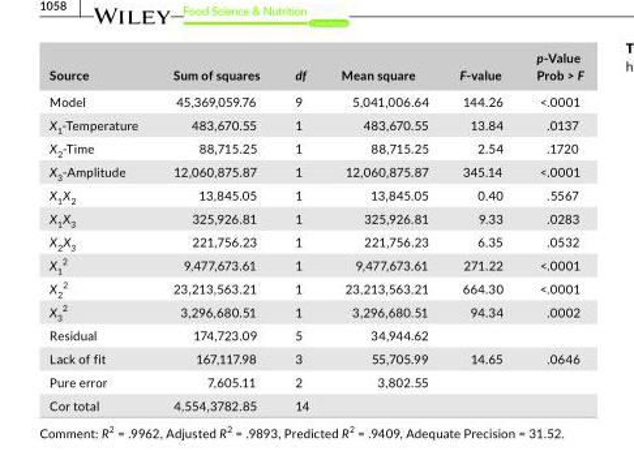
<table><thead><tr><td>Source</td><td>Sumofsquares</td><td>df</td><td>Meansquare</td><td>F-value</td><td>p-Value Prob&gt;F</td></tr></thead><tbody><tr><td>Model</td><td>45,369,059.76</td><td>9</td><td>5,041,006.64</td><td>144.26</td><td>&lt;.0001</td></tr><tr><td>X<sub>1</sub>- Temperature</td><td>483,670.55</td><td>1</td><td>483,670.55</td><td>13.84</td><td>.0137</td></tr><tr><td>X<sub>2</sub>- Time</td><td>88,715.25</td><td>1</td><td>88,715.25</td><td>2.54</td><td>.1720</td></tr><tr><td>X<sub>3</sub>- Amplitude</td><td>12,060,875.87</td><td>1</td><td>12,060,875.87</td><td>345.14</td><td>&lt;.0001</td></tr><tr><td>X<sub>1</sub>X<sub>2</sub></td><td>13,845.05</td><td>1</td><td>13,845.05</td><td>0.40</td><td>.5567</td></tr><tr><td>X<sub>1</sub>X<sub>3</sub></td><td>325,926.81</td><td>1</td><td>325,926.81</td><td>9.33</td><td>.0283</td></tr><tr><td>X<sub>2</sub>X<sub>3</sub></td><td>221,756.23</td><td>1</td><td>221,756.23</td><td>6.35</td><td>.0532</td></tr><tr><td>X<sub>1</sub> <sup>2</sup></td><td>9,477,673.61</td><td>1</td><td>9,477,673.61</td><td>271.22</td><td>&lt;.0001</td></tr><tr><td>X<sub>2</sub> <sup>2</sup></td><td>23,213,563.21</td><td>1</td><td>23,213,563.21</td><td>664.30</td><td>&lt;.0001</td></tr><tr><td>X<sub>3</sub> <sup>2</sup></td><td>3,296,680.51</td><td>1</td><td>3,296,680.51</td><td>94.34</td><td>.0002</td></tr><tr><td>Residual</td><td>174,723.09</td><td>5</td><td>34,944.62</td><td></td><td></td></tr><tr><td>Lack of fit</td><td>167,117.98</td><td>3</td><td>55,705.99</td><td>14.65</td><td>.0646</td></tr><tr><td>Pure error</td><td>7,605.11</td><td>2</td><td>3,802.55</td><td></td><td></td></tr><tr><td>Cor total</td><td>4,554,3782.85</td><td>14</td><td></td><td></td><td></td></tr></tbody></table>